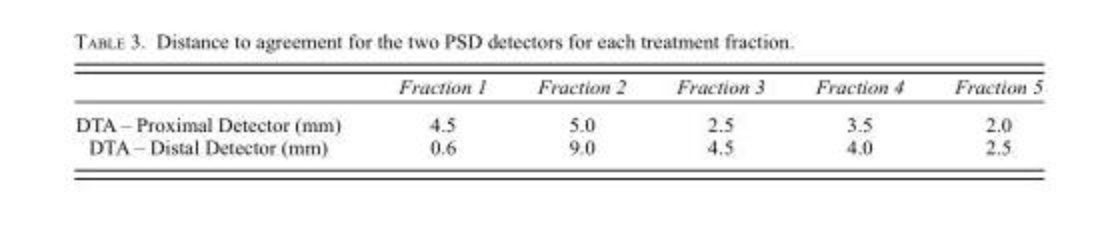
<table><thead><tr><td></td><td>Fraction 1</td><td>Fraction 2</td><td>Fraction 3</td><td>Fraction 4</td><td>Fraction 5</td></tr></thead><tbody><tr><td>DTA – Proximal Detector (mm)</td><td>4.5</td><td>5.0</td><td>2.5</td><td>3.5</td><td>2.0</td></tr><tr><td>DTA – Distal Detector (mm)</td><td>0.6</td><td>9.0</td><td>4.5</td><td>4.0</td><td>2.5</td></tr></tbody></table>